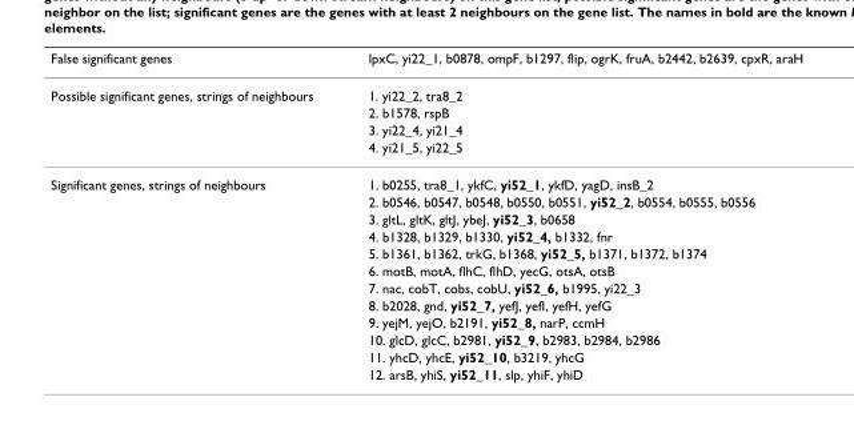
<table><thead><tr><td>False significant genes</td><td>lpxC, yi22_1, b0878, ompF, b1297, flip, ogrK, fruA, b2442, b2639, cpxR, araH</td></tr></thead><tbody><tr><td rowspan="4">Possible significant genes, strings of neighbours</td><td>1. yi22_2, tra8_2</td></tr><tr><td>2. b1578, rspB</td></tr><tr><td>3. yi22_4, yi21_4</td></tr><tr><td>4. yi21_5, yi22_5</td></tr><tr><td rowspan="12">Significant genes, strings of neighbours</td><td>1. b0255, tra8_1, ykfC, yi52_1, ykfD, yagD, insB_2</td></tr><tr><td>2. b0546, b0547, b0548, b0550, b0551, yi52_2, b0554, b0555, b0556</td></tr><tr><td>3. gltL, gltK, gltJ, ybeJ, yi52_3, b0658</td></tr><tr><td>4. b1328, b1329, b1330, yi52_4, b1332, fnr</td></tr><tr><td>5. b1361, b1362, trkG, b1368, yi52_5, b1371, b1372, b1374</td></tr><tr><td>6. motB, motA, flhC, flhD, yecG, otsA, otsB</td></tr><tr><td>7. nac, cobT, cobs, cobU, yi52_6, b1995, yi22_3</td></tr><tr><td>8. b2028, gnd, yi52_7, yefJ, yefI, yefH, yefG</td></tr><tr><td>9. yejM, yejO, b2191, yi52_8, narP, ccmH</td></tr><tr><td>10. glcD, glcC, b2981, yi52_9, b2983, b2984, b2986</td></tr><tr><td>11. yhcD, yhcE, yi52_10, b3219, yhcG</td></tr><tr><td>12. arsB, yhiS, yi52_11, slp, yhiF, yhiD</td></tr></tbody></table>